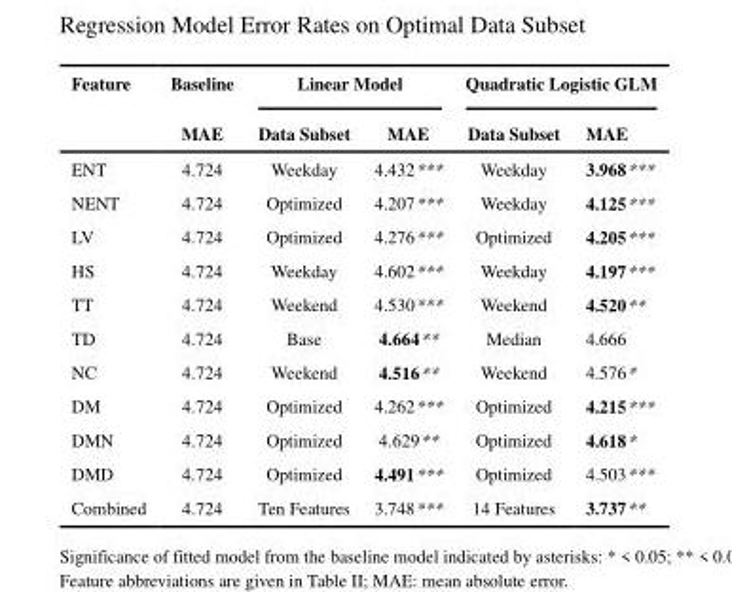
<table><thead><tr><td rowspan="2">Feature</td><td rowspan="2">Baseline MAE</td><td colspan="2">Linear Model</td><td colspan="2">Quadratic Logistic GLM</td></tr><tr><td>Data Subset</td><td>MAE</td><td>Data Subset</td><td>MAE</td></tr></thead><tbody><tr><td>ENT</td><td>4.724</td><td>Weekday</td><td>4.432***</td><td>Weekday</td><td>3.968***</td></tr><tr><td>NENT</td><td>4.724</td><td>Optimized</td><td>4.207***</td><td>Weekday</td><td>4.125***</td></tr><tr><td>LV</td><td>4.724</td><td>Optimized</td><td>4.276***</td><td>Optimized</td><td>4.205***</td></tr><tr><td>HS</td><td>4.724</td><td>Weekday</td><td>4.602***</td><td>Weekday</td><td>4.197***</td></tr><tr><td>TT</td><td>4.724</td><td>Weekend</td><td>4.530***</td><td>Weekend</td><td>4.520**</td></tr><tr><td>TD</td><td>4.724</td><td>Base</td><td>4.664**</td><td>Median</td><td>4.666</td></tr><tr><td>NC</td><td>4.724</td><td>Weekend</td><td>4.516**</td><td>Weekend</td><td>4.576*</td></tr><tr><td>DM</td><td>4.724</td><td>Optimized</td><td>4.262***</td><td>Optimized</td><td>4.215***</td></tr><tr><td>DMN</td><td>4.724</td><td>Optimized</td><td>4.629**</td><td>Optimized</td><td>4.618*</td></tr><tr><td>DMD</td><td>4.724</td><td>Optimized</td><td>4.491***</td><td>Optimized</td><td>4.503***</td></tr><tr><td>Combined</td><td>4.724</td><td>Ten Features</td><td>3.748***</td><td>14 Features</td><td>3.737**</td></tr></tbody></table>